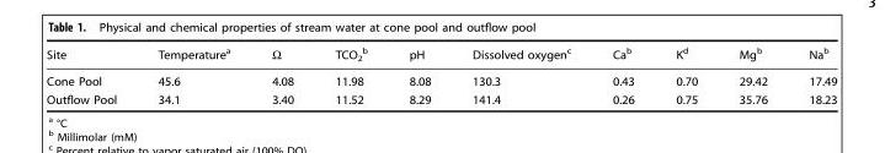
<table><thead><tr><td>Site</td><td>Temperature<sup>a</sup></td><td>Ω</td><td>TCO<sub>2</sub> <sup>b</sup></td><td>pH</td><td>Dissolved oxygen<sup>c</sup></td><td>Ca<sup>b</sup></td><td>K<sup>d</sup></td><td>Mg<sup>b</sup></td><td>Na<sup>b</sup></td></tr></thead><tbody><tr><td>Cone Pool</td><td>45.6</td><td>4.08</td><td>11.98</td><td>8.08</td><td>130.3</td><td>0.43</td><td>0.70</td><td>29.42</td><td>17.49</td></tr><tr><td>Outflow Pool</td><td>34.1</td><td>3.40</td><td>11.52</td><td>8.29</td><td>141.4</td><td>0.26</td><td>0.75</td><td>35.76</td><td>18.23</td></tr></tbody></table>